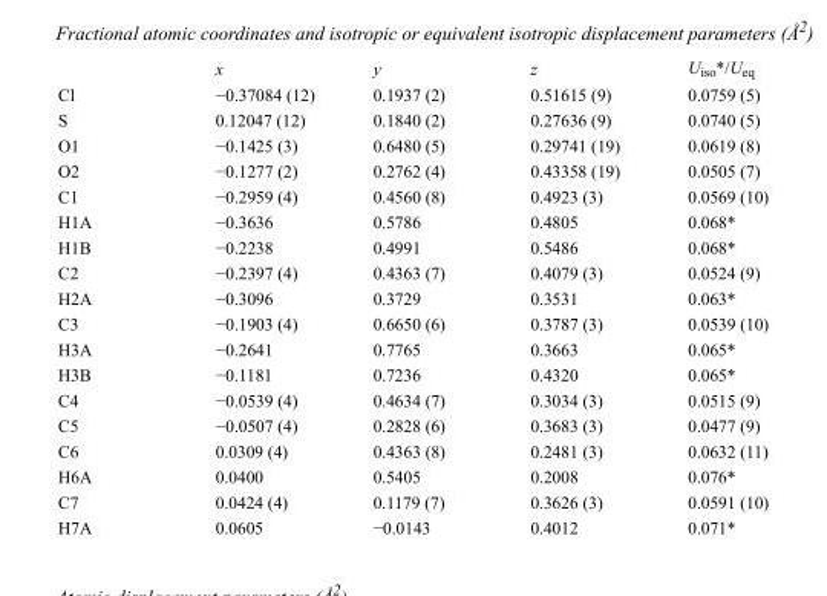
<table><thead><tr><td></td><td>x</td><td>y</td><td>z</td><td>U<sub>iso</sub>*/U<sub>eq</sub></td></tr></thead><tbody><tr><td>Cl</td><td>−0.37084 (12)</td><td>0.1937 (2)</td><td>0.51615 (9)</td><td>0.0759 (5)</td></tr><tr><td>S</td><td>0.12047 (12)</td><td>0.1840 (2)</td><td>0.27636 (9)</td><td>0.0740 (5)</td></tr><tr><td>O1</td><td>−0.1425 (3)</td><td>0.6480 (5)</td><td>0.29741 (19)</td><td>0.0619 (8)</td></tr><tr><td>O2</td><td>−0.1277 (2)</td><td>0.2762 (4)</td><td>0.43358 (19)</td><td>0.0505 (7)</td></tr><tr><td>C1</td><td>−0.2959 (4)</td><td>0.4560 (8)</td><td>0.4923 (3)</td><td>0.0569 (10)</td></tr><tr><td>H1A</td><td>−0.3636</td><td>0.5786</td><td>0.4805</td><td>0.068*</td></tr><tr><td>H1B</td><td>−0.2238</td><td>0.4991</td><td>0.5486</td><td>0.068*</td></tr><tr><td>C2</td><td>−0.2397 (4)</td><td>0.4363 (7)</td><td>0.4079 (3)</td><td>0.0524 (9)</td></tr><tr><td>H2A</td><td>−0.3096</td><td>0.3729</td><td>0.3531</td><td>0.063*</td></tr><tr><td>C3</td><td>−0.1903 (4)</td><td>0.6650 (6)</td><td>0.3787 (3)</td><td>0.0539 (10)</td></tr><tr><td>H3A</td><td>−0.2641</td><td>0.7765</td><td>0.3663</td><td>0.065*</td></tr><tr><td>H3B</td><td>−0.1181</td><td>0.7236</td><td>0.4320</td><td>0.065*</td></tr><tr><td>C4</td><td>−0.0539 (4)</td><td>0.4634 (7)</td><td>0.3034 (3)</td><td>0.0515 (9)</td></tr><tr><td>C5</td><td>−0.0507 (4)</td><td>0.2828 (6)</td><td>0.3683 (3)</td><td>0.0477 (9)</td></tr><tr><td>C6</td><td>0.0309 (4)</td><td>0.4363 (8)</td><td>0.2481 (3)</td><td>0.0632 (11)</td></tr><tr><td>H6A</td><td>0.0400</td><td>0.5405</td><td>0.2008</td><td>0.076*</td></tr><tr><td>C7</td><td>0.0424 (4)</td><td>0.1179 (7)</td><td>0.3626 (3)</td><td>0.0591 (10)</td></tr><tr><td>H7A</td><td>0.0605</td><td>−0.0143</td><td>0.4012</td><td>0.071*</td></tr></tbody></table>